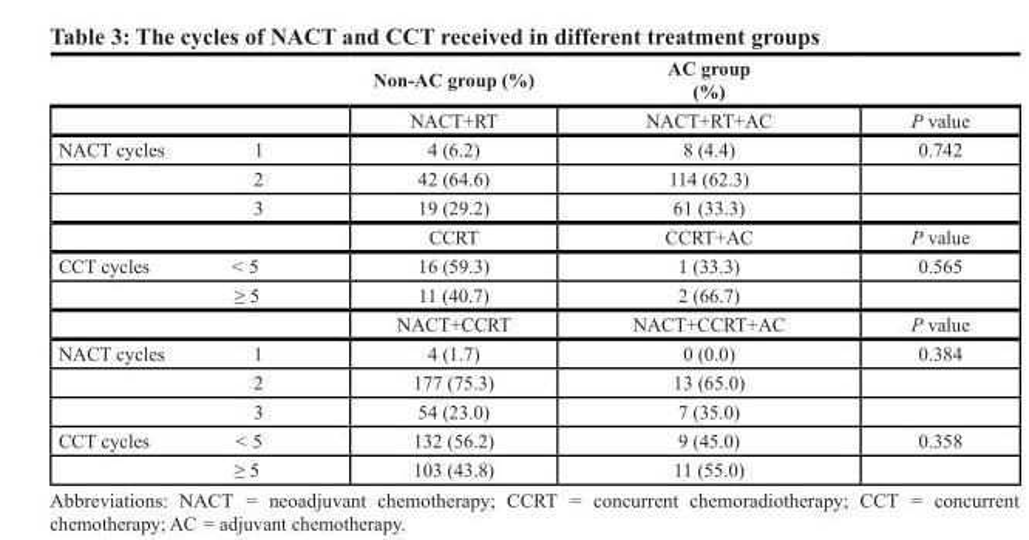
<table><thead><tr><td></td><td>Non-AC group (%)</td><td>AC group (%)</td><td></td></tr></thead><tbody><tr><td></td><td>NACT+RT</td><td>NACT+RT+AC</td><td>P value</td></tr><tr><td>NACT cycles 1</td><td>4 (6.2)</td><td>8 (4.4)</td><td>0.742</td></tr><tr><td>2</td><td>42 (64.6)</td><td>114 (62.3)</td><td></td></tr><tr><td rowspan="2">3</td><td>19 (29.2)</td><td>61 (33.3)</td><td></td></tr><tr><td>CCRT</td><td>CCRT+AC</td><td>P value</td></tr><tr><td>CCT cycles &lt; 5</td><td>16 (59.3)</td><td>1 (33.3)</td><td>0.565</td></tr><tr><td rowspan="2">≥ 5</td><td>11 (40.7)</td><td>2 (66.7)</td><td></td></tr><tr><td>NACT+CCRT</td><td>NACT+CCRT+AC</td><td>P value</td></tr><tr><td>NACT cycles 1</td><td>4 (1.7)</td><td>0 (0.0)</td><td>0.384</td></tr><tr><td>2</td><td>177 (75.3)</td><td>13 (65.0)</td><td></td></tr><tr><td>3</td><td>54 (23.0)</td><td>7 (35.0)</td><td></td></tr><tr><td>CCT cycles &lt; 5</td><td>132 (56.2)</td><td>9 (45.0)</td><td>0.358</td></tr><tr><td>≥ 5</td><td>103 (43.8)</td><td>11 (55.0)</td><td></td></tr></tbody></table>